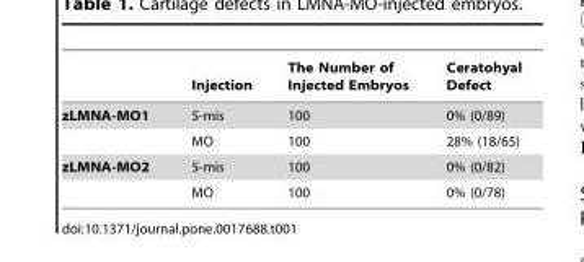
<table><thead><tr><td></td><td>Injection</td><td>The Number of Injected Embryos</td><td>Ceratohyal Defect</td></tr></thead><tbody><tr><td rowspan="2">zLMNA-MO1</td><td>5-mis</td><td>100</td><td>0% (0/89)</td></tr><tr><td>MO</td><td>100</td><td>28% (18/65)</td></tr><tr><td rowspan="2">zLMNA-MO2</td><td>5-mis</td><td>100</td><td>0% (0/82)</td></tr><tr><td>MO</td><td>100</td><td>0% (0/78)</td></tr></tbody></table>